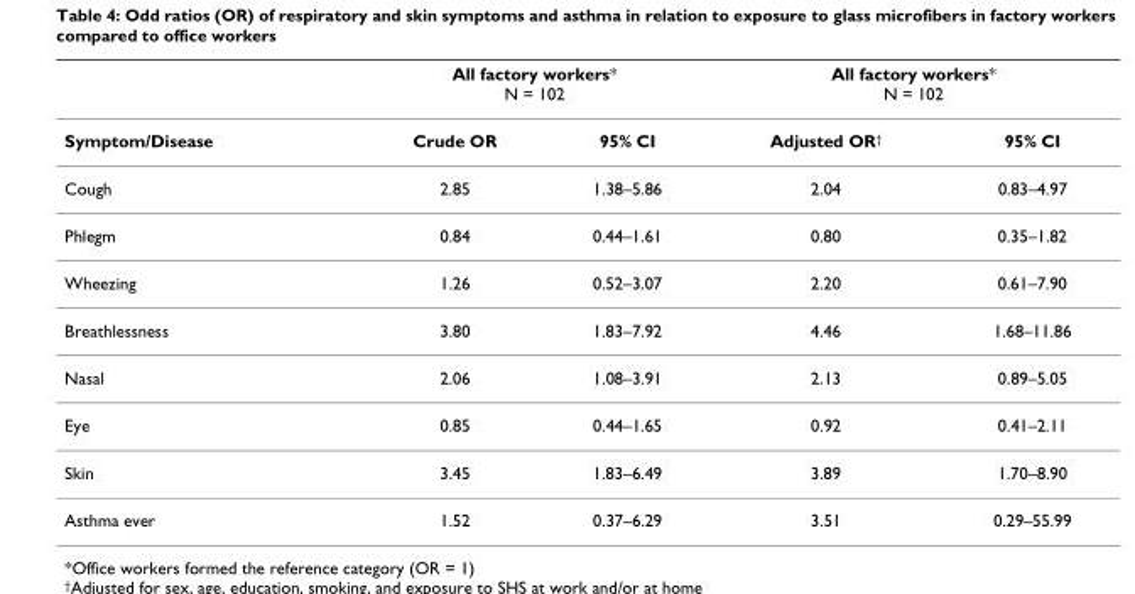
<table><thead><tr><td rowspan="2">Symptom/Disease</td><td colspan="2">All factory workers* N = 102</td><td colspan="2">All factory workers* N = 102</td></tr><tr><td>Crude OR</td><td>95% CI</td><td>Adjusted OR<sup>†</sup></td><td>95% CI</td></tr></thead><tbody><tr><td>Cough</td><td>2.85</td><td>1.38–5.86</td><td>2.04</td><td>0.83–4.97</td></tr><tr><td>Phlegm</td><td>0.84</td><td>0.44–1.61</td><td>0.80</td><td>0.35–1.82</td></tr><tr><td>Wheezing</td><td>1.26</td><td>0.52–3.07</td><td>2.20</td><td>0.61–7.90</td></tr><tr><td>Breathlessness</td><td>3.80</td><td>1.83–7.92</td><td>4.46</td><td>1.68–11.86</td></tr><tr><td>Nasal</td><td>2.06</td><td>1.08–3.91</td><td>2.13</td><td>0.89–5.05</td></tr><tr><td>Eye</td><td>0.85</td><td>0.44–1.65</td><td>0.92</td><td>0.41–2.11</td></tr><tr><td>Skin</td><td>3.45</td><td>1.83–6.49</td><td>3.89</td><td>1.70–8.90</td></tr><tr><td>Asthma ever</td><td>1.52</td><td>0.37–6.29</td><td>3.51</td><td>0.29–55.99</td></tr></tbody></table>